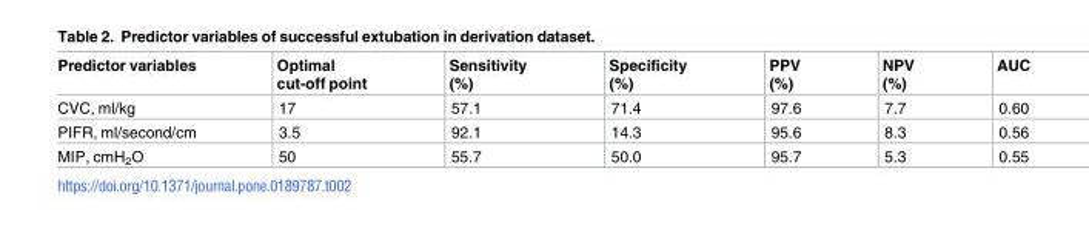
<table><thead><tr><td>Predictor variables</td><td>Optimal cut-off point</td><td>Sensitivity (%)</td><td>Specificity (%)</td><td>PPV (%)</td><td>NPV (%)</td><td>AUC</td></tr></thead><tbody><tr><td>CVC, ml/kg</td><td>17</td><td>57.1</td><td>71.4</td><td>97.6</td><td>7.7</td><td>0.60</td></tr><tr><td>PIFR, ml/second/cm</td><td>3.5</td><td>92.1</td><td>14.3</td><td>95.6</td><td>8.3</td><td>0.56</td></tr><tr><td>MIP, cmH<sub>2</sub>O</td><td>50</td><td>55.7</td><td>50.0</td><td>95.7</td><td>5.3</td><td>0.55</td></tr></tbody></table>